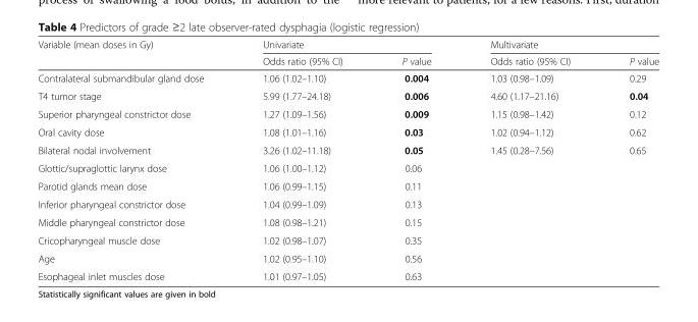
<table><thead><tr><td rowspan="2">Variable (mean doses in Gy)</td><td colspan="2">Univariate</td><td colspan="2">Multivariate</td></tr><tr><td>Odds ratio (95% CI)</td><td>P value</td><td>Odds ratio (95% CI)</td><td>P value</td></tr></thead><tbody><tr><td>Contralateral submandibular gland dose</td><td>1.06 (1.02–1.10)</td><td>0.004</td><td>1.03 (0.98–1.09)</td><td>0.29</td></tr><tr><td>T4 tumor stage</td><td>5.99 (1.77–24.18)</td><td>0.006</td><td>4.60 (1.17–21.16)</td><td>0.04</td></tr><tr><td>Superior pharyngeal constrictor dose</td><td>1.27 (1.09–1.56)</td><td>0.009</td><td>1.15 (0.98–1.42)</td><td>0.12</td></tr><tr><td>Oral cavity dose</td><td>1.08 (1.01–1.16)</td><td>0.03</td><td>1.02 (0.94–1.12)</td><td>0.62</td></tr><tr><td>Bilateral nodal involvement</td><td>3.26 (1.02–11.18)</td><td>0.05</td><td>1.45 (0.28–7.56)</td><td>0.65</td></tr><tr><td>Glottic/supraglottic larynx dose</td><td>1.06 (1.00–1.12)</td><td>0.06</td><td></td><td></td></tr><tr><td>Parotid glands mean dose</td><td>1.06 (0.99–1.15)</td><td>0.11</td><td></td><td></td></tr><tr><td>Inferior pharyngeal constrictor dose</td><td>1.04 (0.99–1.09)</td><td>0.13</td><td></td><td></td></tr><tr><td>Middle pharyngeal constrictor dose</td><td>1.08 (0.98–1.21)</td><td>0.15</td><td></td><td></td></tr><tr><td>Cricopharyngeal muscle dose</td><td>1.02 (0.98–1.07)</td><td>0.35</td><td></td><td></td></tr><tr><td>Age</td><td>1.02 (0.95–1.10)</td><td>0.56</td><td></td><td></td></tr><tr><td>Esophageal inlet muscles dose</td><td>1.01 (0.97–1.05)</td><td>0.63</td><td></td><td></td></tr></tbody></table>